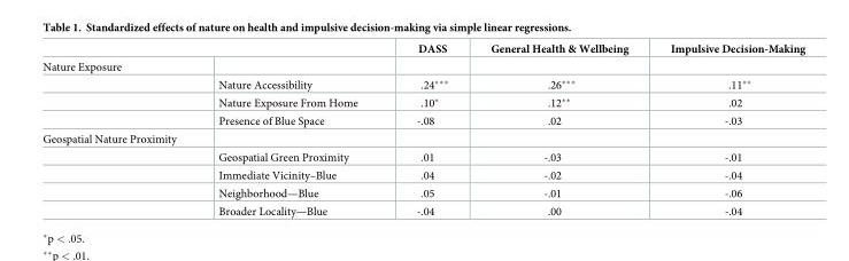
<table><thead><tr><td></td><td></td><td>DASS</td><td>General Health &amp; Wellbeing</td><td>Impulsive Decision-Making</td></tr></thead><tbody><tr><td colspan="5">Nature Exposure</td></tr><tr><td></td><td>Nature Accessibility</td><td>.24***</td><td>.26***</td><td>.11**</td></tr><tr><td></td><td>Nature Exposure From Home</td><td>.10*</td><td>.12**</td><td>.02</td></tr><tr><td></td><td>Presence of Blue Space</td><td>-.08</td><td>.02</td><td>-.03</td></tr><tr><td colspan="5">Geospatial Nature Proximity</td></tr><tr><td></td><td>Geospatial Green Proximity</td><td>.01</td><td>-.03</td><td>-.01</td></tr><tr><td></td><td>Immediate Vicinity–Blue</td><td>.04</td><td>-.02</td><td>-.04</td></tr><tr><td></td><td>Neighborhood—Blue</td><td>.05</td><td>-.01</td><td>-.06</td></tr><tr><td></td><td>Broader Locality—Blue</td><td>-.04</td><td>.00</td><td>-.04</td></tr></tbody></table>